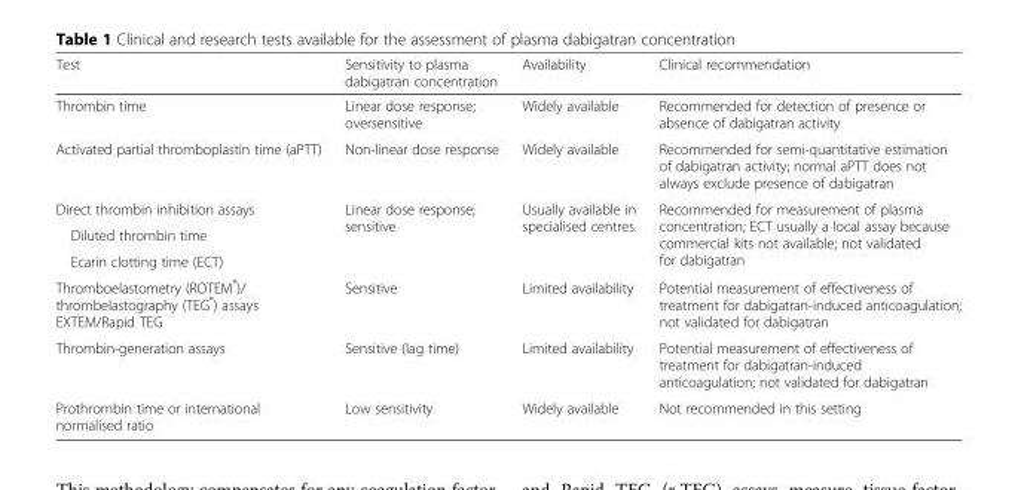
<table><thead><tr><td>Test</td><td>Sensitivity to plasma dabigatran concentration</td><td>Availability</td><td>Clinical recommendation</td></tr></thead><tbody><tr><td>Thrombin time</td><td>Linear dose response; oversensitive</td><td>Widely available</td><td>Recommended for detection of presence or absence of dabigatran activity</td></tr><tr><td>Activated partial thromboplastin time (aPTT)</td><td>Non-linear dose response</td><td>Widely available</td><td>Recommended for semi-quantitative estimation of dabigatran activity; normal aPTT does not always exclude presence of dabigatran</td></tr><tr><td>Direct thrombin inhibition assays</td><td rowspan="3">Linear dose response; sensitive</td><td rowspan="3">Usually available in specialised centres</td><td rowspan="3">Recommended for measurement of plasma concentration; ECT usually a local assay because commercial kits not available; not validated for dabigatran</td></tr><tr><td>Diluted thrombin time</td></tr><tr><td>Ecarin clotting time (ECT)</td></tr><tr><td>Thromboelastometry (ROTEM<sup>®</sup>)/ thrombelastography (TEG<sup>®</sup>) assays EXTEM/Rapid TEG</td><td>Sensitive</td><td>Limited availability</td><td>Potential measurement of effectiveness of treatment for dabigatran-induced anticoagulation; not validated for dabigatran</td></tr><tr><td>Thrombin-generation assays</td><td>Sensitive (lag time)</td><td>Limited availability</td><td>Potential measurement of effectiveness of treatment for dabigatran-induced anticoagulation; not validated for dabigatran</td></tr><tr><td>Prothrombin time or international normalised ratio</td><td>Low sensitivity</td><td>Widely available</td><td>Not recommended in this setting</td></tr></tbody></table>